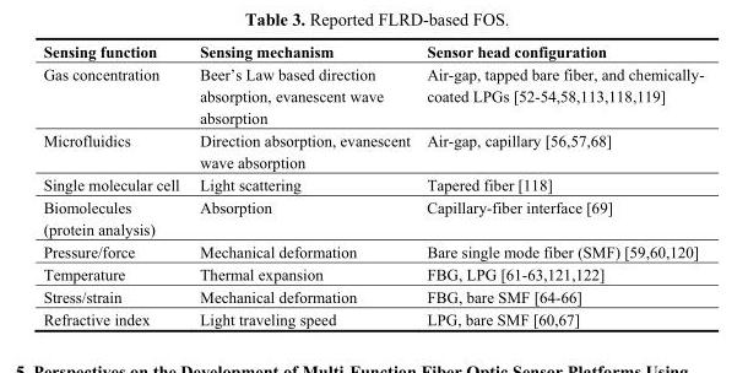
<table><thead><tr><td>Sensing function</td><td>Sensing mechanism</td><td>Sensor head configuration</td></tr></thead><tbody><tr><td>Gas concentration</td><td>Beer’s Law based direction absorption, evanescent wave absorption</td><td>Air-gap, tapped bare fiber, and chemically- coated LPGs [52-54,58,113,118,119]</td></tr><tr><td>Microfluidics</td><td>Direction absorption, evanescent wave absorption</td><td>Air-gap, capillary [56,57,68]</td></tr><tr><td>Single molecular cell</td><td>Light scattering</td><td>Tapered fiber [118]</td></tr><tr><td>Biomolecules (protein analysis)</td><td>Absorption</td><td>Capillary-fiber interface [69]</td></tr><tr><td>Pressure/force</td><td>Mechanical deformation</td><td>Bare single mode fiber (SMF) [59,60,120]</td></tr><tr><td>Temperature</td><td>Thermal expansion</td><td>FBG, LPG [61-63,121,122]</td></tr><tr><td>Stress/strain</td><td>Mechanical deformation</td><td>FBG, bare SMF [64-66]</td></tr><tr><td>Refractive index</td><td>Light traveling speed</td><td>LPG, bare SMF [60,67]</td></tr></tbody></table>